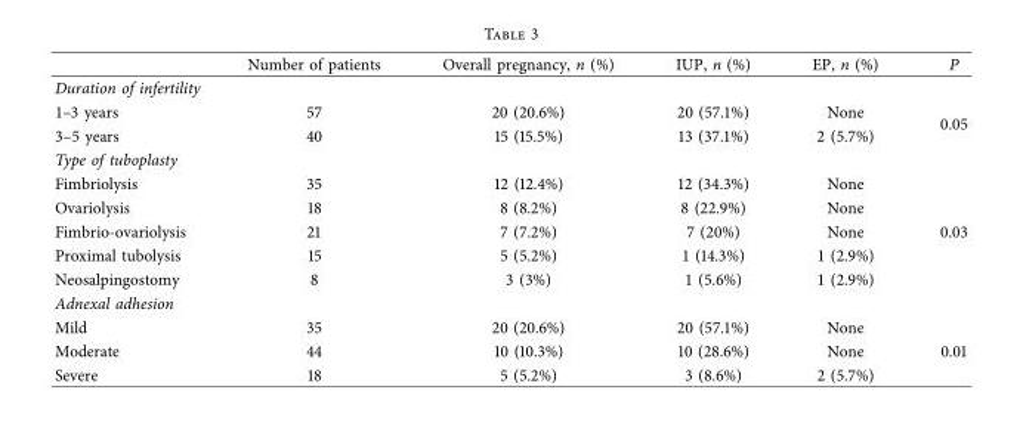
<table><thead><tr><td></td><td>Number of patients</td><td>Overall pregnancy, n (%)</td><td>IUP, n (%)</td><td>EP, n (%)</td><td>P</td></tr></thead><tbody><tr><td colspan="6">Duration of infertility</td></tr><tr><td>1–3 years</td><td>57</td><td>20 (20.6%)</td><td>20 (57.1%)</td><td>None</td><td rowspan="2">0.05</td></tr><tr><td>3–5 years</td><td>40</td><td>15 (15.5%)</td><td>13 (37.1%)</td><td>2 (5.7%)</td></tr><tr><td colspan="6">Type of tuboplasty</td></tr><tr><td>Fimbriolysis</td><td>35</td><td>12 (12.4%)</td><td>12 (34.3%)</td><td>None</td><td rowspan="5">0.03</td></tr><tr><td>Ovariolysis</td><td>18</td><td>8 (8.2%)</td><td>8 (22.9%)</td><td>None</td></tr><tr><td>Fimbrio-ovariolysis</td><td>21</td><td>7 (7.2%)</td><td>7 (20%)</td><td>None</td></tr><tr><td>Proximal tubolysis</td><td>15</td><td>5 (5.2%)</td><td>1 (14.3%)</td><td>1 (2.9%)</td></tr><tr><td>Neosalpingostomy</td><td>8</td><td>3 (3%)</td><td>1 (5.6%)</td><td>1 (2.9%)</td></tr><tr><td colspan="6">Adnexal adhesion</td></tr><tr><td>Mild</td><td>35</td><td>20 (20.6%)</td><td>20 (57.1%)</td><td>None</td><td rowspan="3">0.01</td></tr><tr><td>Moderate</td><td>44</td><td>10 (10.3%)</td><td>10 (28.6%)</td><td>None</td></tr><tr><td>Severe</td><td>18</td><td>5 (5.2%)</td><td>3 (8.6%)</td><td>2 (5.7%)</td></tr></tbody></table>